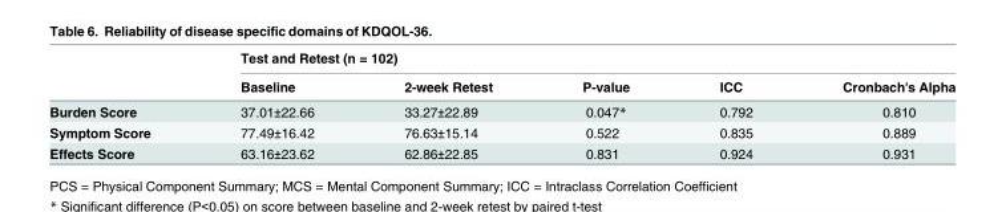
<table><thead><tr><td rowspan="2"></td><td colspan="5">Test and Retest (n = 102)</td></tr><tr><td>Baseline</td><td>2-week Retest</td><td>P-value</td><td>ICC</td><td>Cronbach&#x27;s Alpha</td></tr></thead><tbody><tr><td>Burden Score</td><td>37.01±22.66</td><td>33.27±22.89</td><td>0.047*</td><td>0.792</td><td>0.810</td></tr><tr><td>Symptom Score</td><td>77.49±16.42</td><td>76.63±15.14</td><td>0.522</td><td>0.835</td><td>0.889</td></tr><tr><td>Effects Score</td><td>63.16±23.62</td><td>62.86±22.85</td><td>0.831</td><td>0.924</td><td>0.931</td></tr></tbody></table>